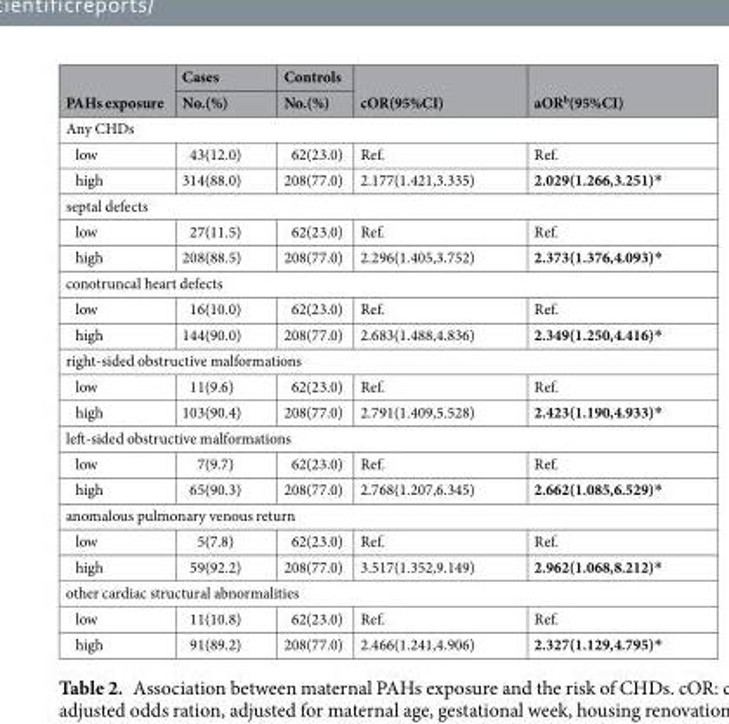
<table><thead><tr><td rowspan="2">PAHs exposure</td><td rowspan="2">Cases No.(%)</td><td rowspan="2">Controls No.(%)</td><td rowspan="2">cOR(95%CI)</td><td rowspan="2">aOR<sup>b</sup>(95%CI)</td></tr><tr></tr></thead><tbody><tr><td colspan="5">Any CHDs</td></tr><tr><td>low</td><td>43(12.0)</td><td>62(23.0)</td><td>Ref.</td><td>Ref.</td></tr><tr><td>high</td><td>314(88.0)</td><td>208(77.0)</td><td>2.177(1.421,3.335)</td><td>2.029(1.266,3.251)*</td></tr><tr><td colspan="5">septal defects</td></tr><tr><td>low</td><td>27(11.5)</td><td>62(23.0)</td><td>Ref.</td><td>Ref.</td></tr><tr><td>high</td><td>208(88.5)</td><td>208(77.0)</td><td>2.296(1.405,3.752)</td><td>2.373(1.376,4.093)*</td></tr><tr><td colspan="5">conotruncal heart defects</td></tr><tr><td>low</td><td>16(10.0)</td><td>62(23.0)</td><td>Ref.</td><td>Ref.</td></tr><tr><td>high</td><td>144(90.0)</td><td>208(77.0)</td><td>2.683(1.488,4.836)</td><td>2.349(1.250,4.416)*</td></tr><tr><td colspan="5">right-sided obstructive malformations</td></tr><tr><td>low</td><td>11(9.6)</td><td>62(23.0)</td><td>Ref.</td><td>Ref.</td></tr><tr><td>high</td><td>103(90.4)</td><td>208(77.0)</td><td>2.791(1.409,5.528)</td><td>2.423(1.190,4.933)*</td></tr><tr><td colspan="5">left-sided obstructive malformations</td></tr><tr><td>low</td><td>7(9.7)</td><td>62(23.0)</td><td>Ref.</td><td>Ref.</td></tr><tr><td>high</td><td>65(90.3)</td><td>208(77.0)</td><td>2.768(1.207,6.345)</td><td>2.662(1.085,6.529)*</td></tr><tr><td colspan="5">anomalous pulmonary venous return</td></tr><tr><td>low</td><td>5(7.8)</td><td>62(23.0)</td><td>Ref.</td><td>Ref.</td></tr><tr><td>high</td><td>59(92.2)</td><td>208(77.0)</td><td>3.517(1.352,9.149)</td><td>2.962(1.068,8.212)*</td></tr><tr><td colspan="5">other cardiac structural abnormalities</td></tr><tr><td>low</td><td>11(10.8)</td><td>62(23.0)</td><td>Ref.</td><td>Ref.</td></tr><tr><td>high</td><td>91(89.2)</td><td>208(77.0)</td><td>2.466(1.241,4.906)</td><td>2.327(1.129,4.795)*</td></tr></tbody></table>